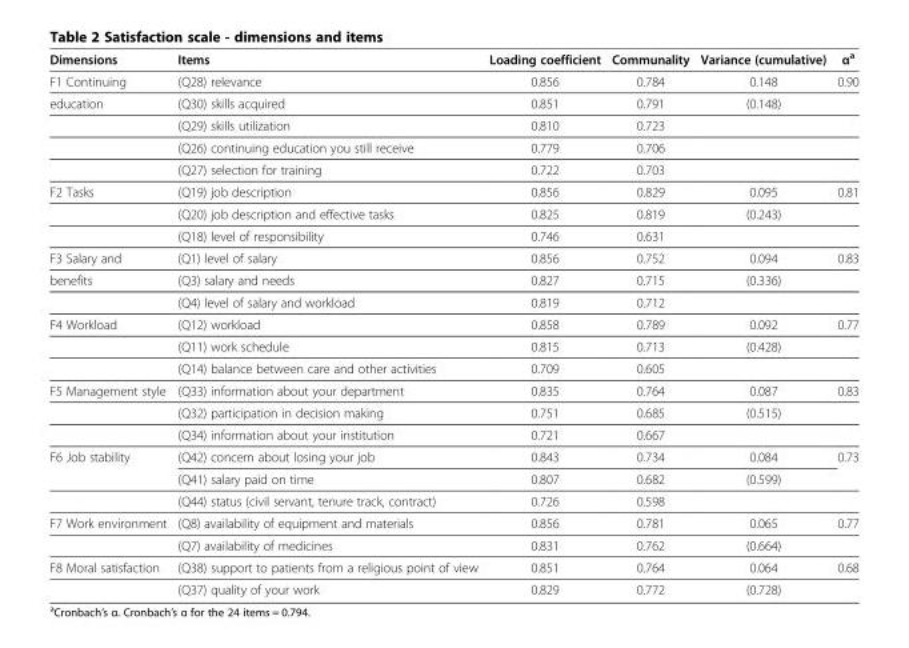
<table><thead><tr><td>Dimensions</td><td>Items</td><td>Loading coefficient</td><td>Communality</td><td>Variance (cumulative)</td><td>α<sup>a</sup></td></tr></thead><tbody><tr><td>F1 Continuing</td><td>(Q28) relevance</td><td>0.856</td><td>0.784</td><td>0.148</td><td>0.90</td></tr><tr><td rowspan="4">education</td><td>(Q30) skills acquired</td><td>0.851</td><td>0.791</td><td>(0.148)</td><td></td></tr><tr><td>(Q29) skills utilization</td><td>0.810</td><td>0.723</td><td></td><td></td></tr><tr><td>(Q26) continuing education you still receive</td><td>0.779</td><td>0.706</td><td></td><td></td></tr><tr><td>(Q27) selection for training</td><td>0.722</td><td>0.703</td><td></td><td></td></tr><tr><td rowspan="3">F2 Tasks</td><td>(Q19) job description</td><td>0.856</td><td>0.829</td><td>0.095</td><td>0.81</td></tr><tr><td>(Q20) job description and effective tasks</td><td>0.825</td><td>0.819</td><td>(0.243)</td><td></td></tr><tr><td>(Q18) level of responsibility</td><td>0.746</td><td>0.631</td><td></td><td></td></tr><tr><td>F3 Salary and</td><td>(Q1) level of salary</td><td>0.856</td><td>0.752</td><td>0.094</td><td>0.83</td></tr><tr><td rowspan="2">benefits</td><td>(Q3) salary and needs</td><td>0.827</td><td>0.715</td><td>(0.336)</td><td></td></tr><tr><td>(Q4) level of salary and workload</td><td>0.819</td><td>0.712</td><td></td><td></td></tr><tr><td rowspan="3">F4 Workload</td><td>(Q12) workload</td><td>0.858</td><td>0.789</td><td>0.092</td><td>0.77</td></tr><tr><td>(Q11) work schedule</td><td>0.815</td><td>0.713</td><td>(0.428)</td><td></td></tr><tr><td>(Q14) balance between care and other activities</td><td>0.709</td><td>0.605</td><td></td><td></td></tr><tr><td rowspan="3">F5 Management style</td><td>(Q33) information about your department</td><td>0.835</td><td>0.764</td><td>0.087</td><td>0.83</td></tr><tr><td>(Q32) participation in decision making</td><td>0.751</td><td>0.685</td><td>(0.515)</td><td></td></tr><tr><td>(Q34) information about your institution</td><td>0.721</td><td>0.667</td><td></td><td></td></tr><tr><td rowspan="3">F6 Job stability</td><td>(Q42) concern about losing your job</td><td>0.843</td><td>0.734</td><td>0.084</td><td rowspan="2">0.73</td></tr><tr><td>(Q41) salary paid on time</td><td>0.807</td><td>0.682</td><td>(0.599)</td></tr><tr><td>(Q44) status (civil servant, tenure track, contract)</td><td>0.726</td><td>0.598</td><td></td><td></td></tr><tr><td rowspan="2">F7 Work environment</td><td>(Q8) availability of equipment and materials</td><td>0.856</td><td>0.781</td><td>0.065</td><td>0.77</td></tr><tr><td>(Q7) availability of medicines</td><td>0.831</td><td>0.762</td><td>(0.664)</td><td></td></tr><tr><td rowspan="2">F8 Moral satisfaction</td><td>(Q38) support to patients from a religious point of view</td><td>0.851</td><td>0.764</td><td>0.064</td><td>0.68</td></tr><tr><td>(Q37) quality of your work</td><td>0.829</td><td>0.772</td><td>(0.728)</td><td></td></tr></tbody></table>